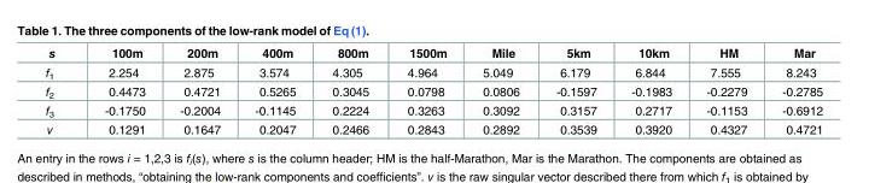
<table><thead><tr><td>s</td><td>100m</td><td>200m</td><td>400m</td><td>800m</td><td>1500m</td><td>Mile</td><td>5km</td><td>10km</td><td>HM</td><td>Mar</td></tr></thead><tbody><tr><td>f<sub>1</sub></td><td>2.254</td><td>2.875</td><td>3.574</td><td>4.305</td><td>4.964</td><td>5.049</td><td>6.179</td><td>6.844</td><td>7.555</td><td>8.243</td></tr><tr><td>f<sub>2</sub></td><td>0.4473</td><td>0.4721</td><td>0.5265</td><td>0.3045</td><td>0.0798</td><td>0.0806</td><td>-0.1597</td><td>-0.1983</td><td>-0.2279</td><td>-0.2785</td></tr><tr><td>f<sub>3</sub></td><td>-0.1750</td><td>-0.2004</td><td>-0.1145</td><td>0.2224</td><td>0.3263</td><td>0.3092</td><td>0.3157</td><td>0.2717</td><td>-0.1153</td><td>-0.6912</td></tr><tr><td>v</td><td>0.1291</td><td>0.1647</td><td>0.2047</td><td>0.2466</td><td>0.2843</td><td>0.2892</td><td>0.3539</td><td>0.3920</td><td>0.4327</td><td>0.4721</td></tr></tbody></table>